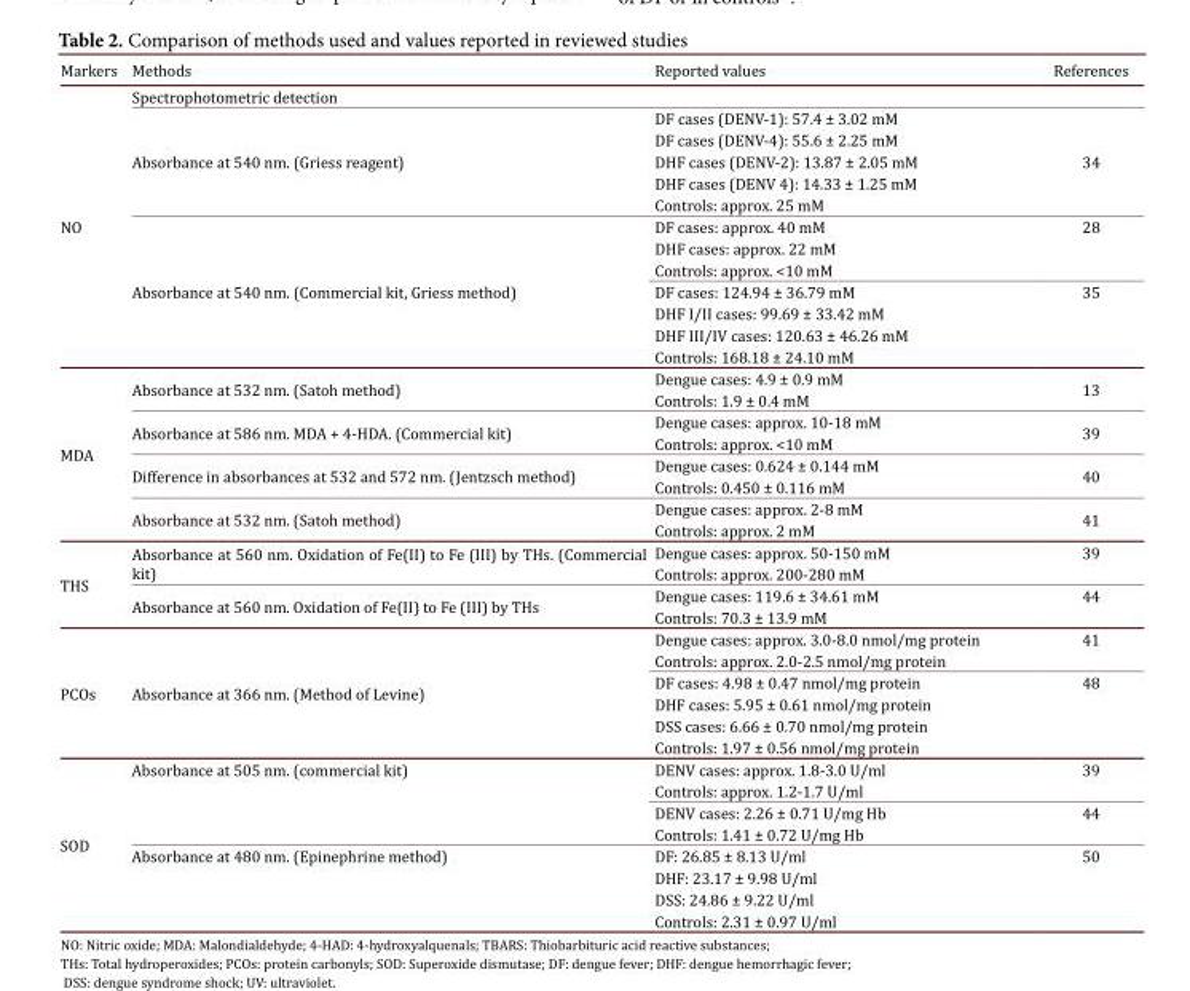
<table><thead><tr><td>Markers</td><td>Methods</td><td>Reported values</td><td>References</td></tr></thead><tbody><tr><td rowspan="13">NO</td><td>Spectrophotometric detection</td><td></td><td></td></tr><tr><td rowspan="5">Absorbance at 540 nm. (Griess reagent)</td><td>DF cases (DENV-1): 57.4 ± 3.02 mM</td><td rowspan="5">34</td></tr><tr><td>DF cases (DENV-4): 55.6 ± 2.25 mM</td></tr><tr><td>DHF cases (DENV-2): 13.87 ± 2.05 mM</td></tr><tr><td>DHF cases (DENV 4): 14.33 ± 1.25 mM</td></tr><tr><td>Controls: approx. 25 mM</td></tr><tr><td rowspan="7">Absorbance at 540 nm. (Commercial kit, Griess method)</td><td>DF cases: approx. 40 mM</td><td>28</td></tr><tr><td>DHF cases: approx. 22 mM</td><td></td></tr><tr><td>Controls: approx. &lt;10 mM</td><td></td></tr><tr><td>DF cases: 124.94 ± 36.79 mM</td><td>35</td></tr><tr><td>DHF I/II cases: 99.69 ± 33.42 mM</td><td></td></tr><tr><td>DHF III/IV cases: 120.63 ± 46.26 mM</td><td></td></tr><tr><td>Controls: 168.18 ± 24.10 mM</td><td></td></tr><tr><td rowspan="8">MDA</td><td rowspan="2">Absorbance at 532 nm. (Satoh method)</td><td>Dengue cases: 4.9 ± 0.9 mM</td><td rowspan="2">13</td></tr><tr><td>Controls: 1.9 ± 0.4 mM</td></tr><tr><td rowspan="2">Absorbance at 586 nm. MDA + 4-HDA. (Commercial kit)</td><td>Dengue cases: approx. 10-18 mM</td><td rowspan="2">39</td></tr><tr><td>Controls: approx. &lt;10 mM</td></tr><tr><td rowspan="2">Difference in absorbances at 532 and 572 nm. (Jentzsch method)</td><td>Dengue cases: 0.624 ± 0.144 mM</td><td rowspan="2">40</td></tr><tr><td>Controls: 0.450 ± 0.116 mM</td></tr><tr><td rowspan="2">Absorbance at 532 nm. (Satoh method)</td><td>Dengue cases: approx. 2-8 mM</td><td rowspan="2">41</td></tr><tr><td>Controls: approx. 2 mM</td></tr><tr><td rowspan="4">THS</td><td rowspan="2">Absorbance at 560 nm. Oxidation of Fe(II) to Fe (III) by THs. (Commercial kit)</td><td>Dengue cases: approx. 50-150 mM</td><td>39</td></tr><tr><td>Controls: approx. 200-280 mM</td><td></td></tr><tr><td rowspan="2">Absorbance at 560 nm. Oxidation of Fe(II) to Fe (III) by THs</td><td>Dengue cases: 119.6 ± 34.61 mM</td><td>44</td></tr><tr><td>Controls: 70.3 ± 13.9 mM</td><td></td></tr><tr><td rowspan="6">PCOs</td><td rowspan="6">Absorbance at 366 nm. (Method of Levine)</td><td>Dengue cases: approx. 3.0-8.0 nmol/mg protein</td><td>41</td></tr><tr><td>Controls: approx. 2.0-2.5 nmol/mg protein</td><td></td></tr><tr><td>DF cases: 4.98 ± 0.47 nmol/mg protein</td><td>48</td></tr><tr><td>DHF cases: 5.95 ± 0.61 nmol/mg protein</td><td></td></tr><tr><td>DSS cases: 6.66 ± 0.70 nmol/mg protein</td><td></td></tr><tr><td>Controls: 1.97 ± 0.56 nmol/mg protein</td><td></td></tr><tr><td rowspan="8">SOD</td><td>Absorbance at 505 nm. (commercial kit)</td><td>DENV cases: approx. 1.8-3.0 U/ml</td><td>39</td></tr><tr><td></td><td>Controls: approx. 1.2-1.7 U/ml</td><td></td></tr><tr><td></td><td>DENV cases: 2.26 ± 0.71 U/mg Hb</td><td>44</td></tr><tr><td></td><td>Controls: 1.41 ± 0.72 U/mg Hb</td><td></td></tr><tr><td>Absorbance at 480 nm. (Epinephrine method)</td><td>DF: 26.85 ± 8.13 U/ml</td><td>50</td></tr><tr><td></td><td>DHF: 23.17 ± 9.98 U/ml</td><td></td></tr><tr><td></td><td>DSS: 24.86 ± 9.22 U/ml</td><td></td></tr><tr><td></td><td>Controls: 2.31 ± 0.97 U/ml</td><td></td></tr></tbody></table>